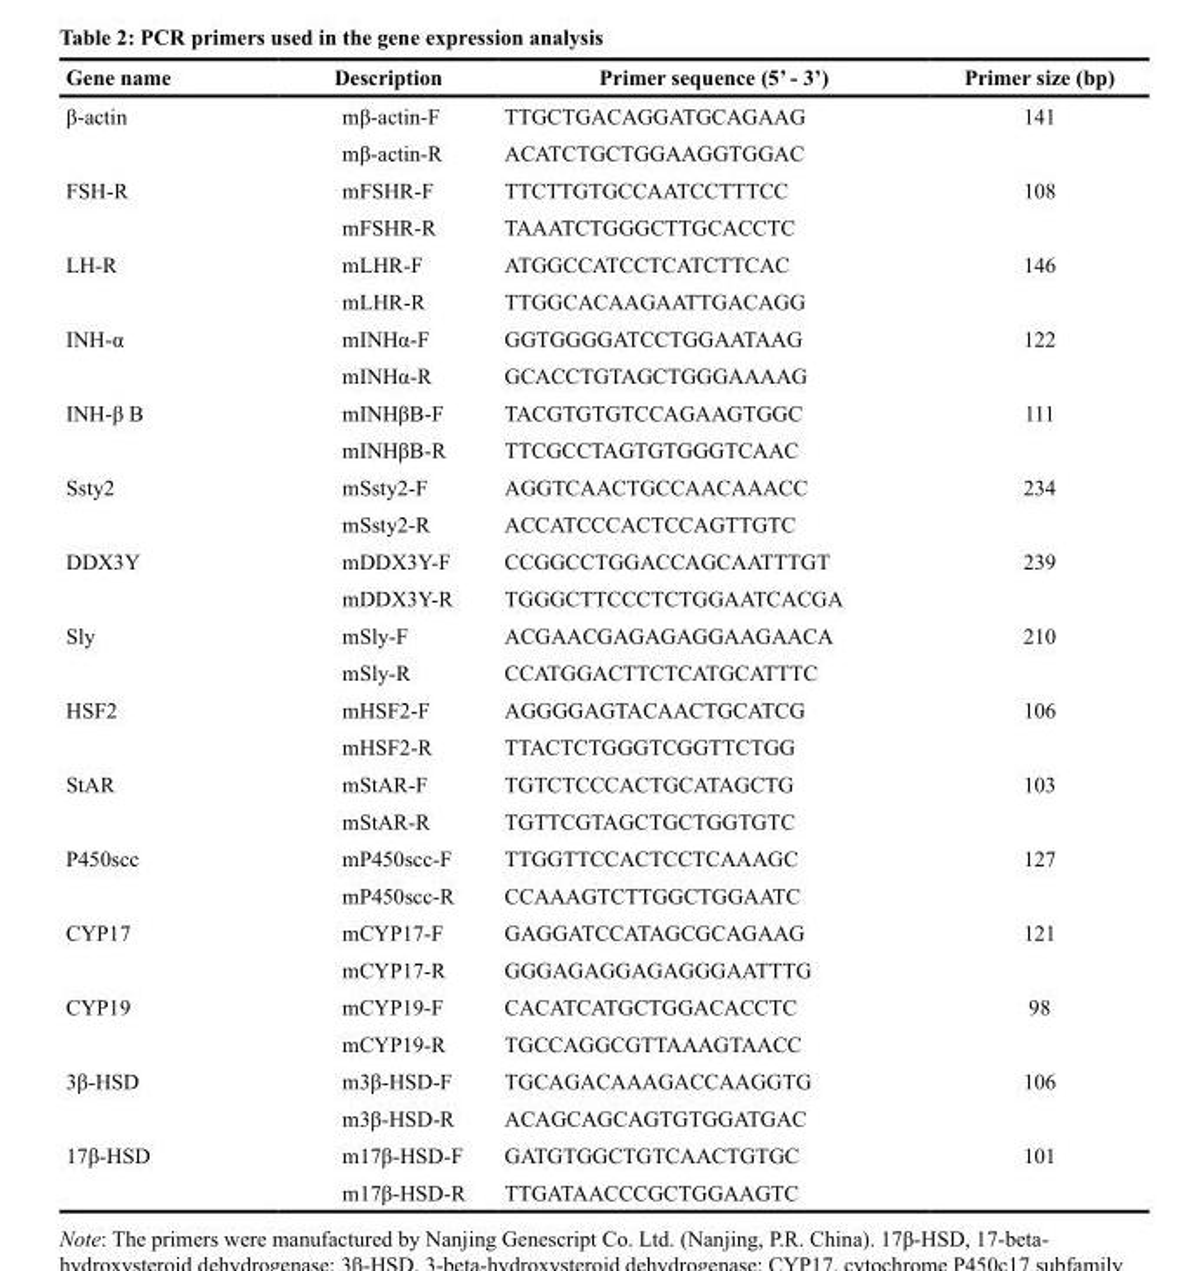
<table><thead><tr><td>Gene name</td><td>Description</td><td>Primer sequence (5’ - 3’)</td><td>Primer size (bp)</td></tr></thead><tbody><tr><td rowspan="2">β-actin</td><td>mβ-actin-F</td><td>TTGCTGACAGGATGCAGAAG</td><td>141</td></tr><tr><td>mβ-actin-R</td><td>ACATCTGCTGGAAGGTGGAC</td><td></td></tr><tr><td rowspan="2">FSH-R</td><td>mFSHR-F</td><td>TTCTTGTGCCAATCCTTTCC</td><td>108</td></tr><tr><td>mFSHR-R</td><td>TAAATCTGGGCTTGCACCTC</td><td></td></tr><tr><td rowspan="2">LH-R</td><td>mLHR-F</td><td>ATGGCCATCCTCATCTTCAC</td><td>146</td></tr><tr><td>mLHR-R</td><td>TTGGCACAAGAATTGACAGG</td><td></td></tr><tr><td rowspan="2">INH-α</td><td>mINHα-F</td><td>GGTGGGGATCCTGGAATAAG</td><td>122</td></tr><tr><td>mINHα-R</td><td>GCACCTGTAGCTGGGAAAAG</td><td></td></tr><tr><td rowspan="2">INH-β B</td><td>mINHβB-F</td><td>TACGTGTGTCCAGAAGTGGC</td><td>111</td></tr><tr><td>mINHβB-R</td><td>TTCGCCTAGTGTGGGTCAAC</td><td></td></tr><tr><td rowspan="2">Ssty2</td><td>mSsty2-F</td><td>AGGTCAACTGCCAACAAACC</td><td>234</td></tr><tr><td>mSsty2-R</td><td>ACCATCCCACTCCAGTTGTC</td><td></td></tr><tr><td rowspan="2">DDX3Y</td><td>mDDX3Y-F</td><td>CCGGCCTGGACCAGCAATTTGT</td><td>239</td></tr><tr><td>mDDX3Y-R</td><td>TGGGCTTCCCTCTGGAATCACGA</td><td></td></tr><tr><td rowspan="2">Sly</td><td>mSly-F</td><td>ACGAACGAGAGAGGAAGAACA</td><td>210</td></tr><tr><td>mSly-R</td><td>CCATGGACTTCTCATGCATTTC</td><td></td></tr><tr><td rowspan="2">HSF2</td><td>mHSF2-F</td><td>AGGGGAGTACAACTGCATCG</td><td>106</td></tr><tr><td>mHSF2-R</td><td>TTACTCTGGGTCGGTTCTGG</td><td></td></tr><tr><td rowspan="2">StAR</td><td>mStAR-F</td><td>TGTCTCCCACTGCATAGCTG</td><td>103</td></tr><tr><td>mStAR-R</td><td>TGTTCGTAGCTGCTGGTGTC</td><td></td></tr><tr><td rowspan="2">P450scc</td><td>mP450scc-F</td><td>TTGGTTCCACTCCTCAAAGC</td><td>127</td></tr><tr><td>mP450scc-R</td><td>CCAAAGTCTTGGCTGGAATC</td><td></td></tr><tr><td rowspan="2">CYP17</td><td>mCYP17-F</td><td>GAGGATCCATAGCGCAGAAG</td><td>121</td></tr><tr><td>mCYP17-R</td><td>GGGAGAGGAGAGGGAATTTG</td><td></td></tr><tr><td rowspan="2">CYP19</td><td>mCYP19-F</td><td>CACATCATGCTGGACACCTC</td><td>98</td></tr><tr><td>mCYP19-R</td><td>TGCCAGGCGTTAAAGTAACC</td><td></td></tr><tr><td rowspan="2">3β-HSD</td><td>m3β-HSD-F</td><td>TGCAGACAAAGACCAAGGTG</td><td>106</td></tr><tr><td>m3β-HSD-R</td><td>ACAGCAGCAGTGTGGATGAC</td><td></td></tr><tr><td rowspan="2">17β-HSD</td><td>m17β-HSD-F</td><td>GATGTGGCTGTCAACTGTGC</td><td>101</td></tr><tr><td>m17β-HSD-R</td><td>TTGATAACCCGCTGGAAGTC</td><td></td></tr></tbody></table>